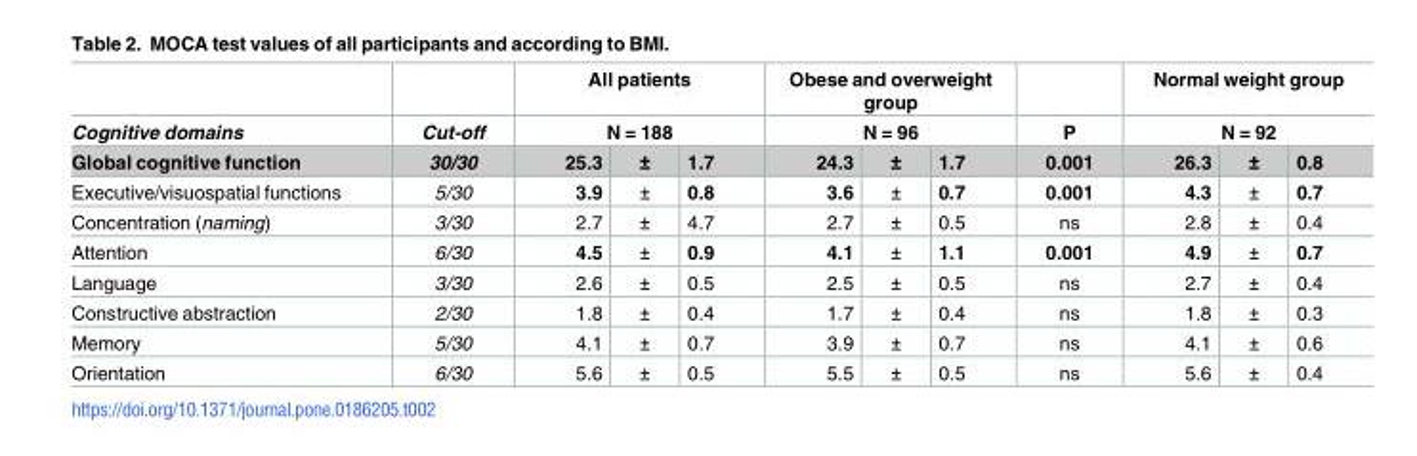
<table><thead><tr><td rowspan="3">Cognitive domains Global cognitive function</td><td rowspan="3">Cut-off 30/30</td><td rowspan="2" colspan="3">All patients N = 188</td><td rowspan="2" colspan="3">Obese and overweight group N = 96</td><td rowspan="3">P 0.001</td><td rowspan="2" colspan="3">Normal weight group N = 92</td></tr><tr></tr><tr><td>25.3</td><td>±</td><td>1.7</td><td>24.3</td><td>±</td><td>1.7</td><td>26.3</td><td>±</td><td>0.8</td></tr></thead><tbody><tr><td>Executive/visuospatial functions</td><td>5/30</td><td>3.9</td><td>±</td><td>0.8</td><td>3.6</td><td>±</td><td>0.7</td><td>0.001</td><td>4.3</td><td>±</td><td>0.7</td></tr><tr><td>Concentration (naming)</td><td>3/30</td><td>2.7</td><td>±</td><td>4.7</td><td>2.7</td><td>±</td><td>0.5</td><td>ns</td><td>2.8</td><td>±</td><td>0.4</td></tr><tr><td>Attention</td><td>6/30</td><td>4.5</td><td>±</td><td>0.9</td><td>4.1</td><td>±</td><td>1.1</td><td>0.001</td><td>4.9</td><td>±</td><td>0.7</td></tr><tr><td>Language</td><td>3/30</td><td>2.6</td><td>±</td><td>0.5</td><td>2.5</td><td>±</td><td>0.5</td><td>ns</td><td>2.7</td><td>±</td><td>0.4</td></tr><tr><td>Constructive abstraction</td><td>2/30</td><td>1.8</td><td>±</td><td>0.4</td><td>1.7</td><td>±</td><td>0.4</td><td>ns</td><td>1.8</td><td>±</td><td>0.3</td></tr><tr><td>Memory</td><td>5/30</td><td>4.1</td><td>±</td><td>0.7</td><td>3.9</td><td>±</td><td>0.7</td><td>ns</td><td>4.1</td><td>±</td><td>0.6</td></tr><tr><td>Orientation</td><td>6/30</td><td>5.6</td><td>±</td><td>0.5</td><td>5.5</td><td>±</td><td>0.5</td><td>ns</td><td>5.6</td><td>±</td><td>0.4</td></tr></tbody></table>